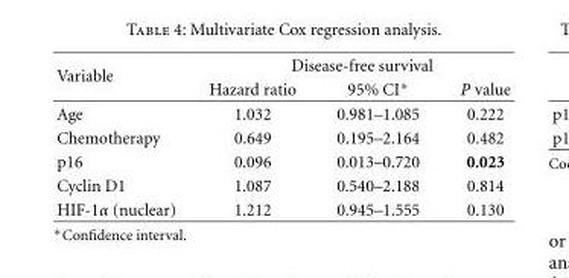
<table><thead><tr><td rowspan="2">Variable</td><td colspan="3">Disease-free survival</td></tr><tr><td>Hazard ratio</td><td>95% CI∗</td><td>P value</td></tr></thead><tbody><tr><td>Age</td><td>1.032</td><td>0.981–1.085</td><td>0.222</td></tr><tr><td>Chemotherapy</td><td>0.649</td><td>0.195–2.164</td><td>0.482</td></tr><tr><td>p16</td><td>0.096</td><td>0.013–0.720</td><td>0.023</td></tr><tr><td>Cyclin D1</td><td>1.087</td><td>0.540–2.188</td><td>0.814</td></tr><tr><td>HIF-1α (nuclear)</td><td>1.212</td><td>0.945–1.555</td><td>0.130</td></tr></tbody></table>